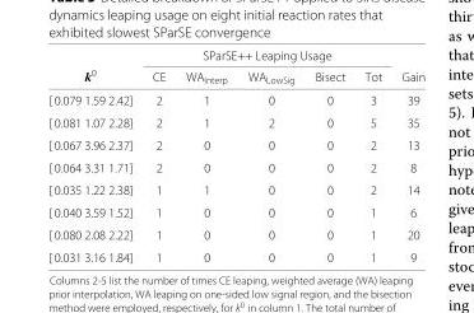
<table><thead><tr><td rowspan="2">k<sup>0</sup></td><td colspan="5">SParSE++ Leaping Usage</td><td rowspan="2">Gain</td></tr><tr><td>CE</td><td>WA<sub>Interp</sub></td><td>WA<sub>LowSig</sub></td><td>Bisect</td><td>Tot</td></tr></thead><tbody><tr><td>[ 0.079 1.59 2.42]</td><td>2</td><td>1</td><td>0</td><td>0</td><td>3</td><td>39</td></tr><tr><td>[ 0.081 1.07 2.28]</td><td>2</td><td>1</td><td>2</td><td>0</td><td>5</td><td>35</td></tr><tr><td>[ 0.067 3.96 2.37]</td><td>2</td><td>0</td><td>0</td><td>0</td><td>2</td><td>13</td></tr><tr><td>[ 0.064 3.31 1.71]</td><td>2</td><td>0</td><td>0</td><td>0</td><td>2</td><td>8</td></tr><tr><td>[ 0.035 1.22 2.38]</td><td>1</td><td>1</td><td>0</td><td>0</td><td>2</td><td>14</td></tr><tr><td>[ 0.040 3.59 1.52]</td><td>1</td><td>0</td><td>0</td><td>0</td><td>1</td><td>6</td></tr><tr><td>[ 0.080 2.08 2.22]</td><td>1</td><td>0</td><td>0</td><td>0</td><td>1</td><td>20</td></tr><tr><td>[ 0.031 3.16 1.84]</td><td>1</td><td>0</td><td>0</td><td>0</td><td>1</td><td>9</td></tr></tbody></table>